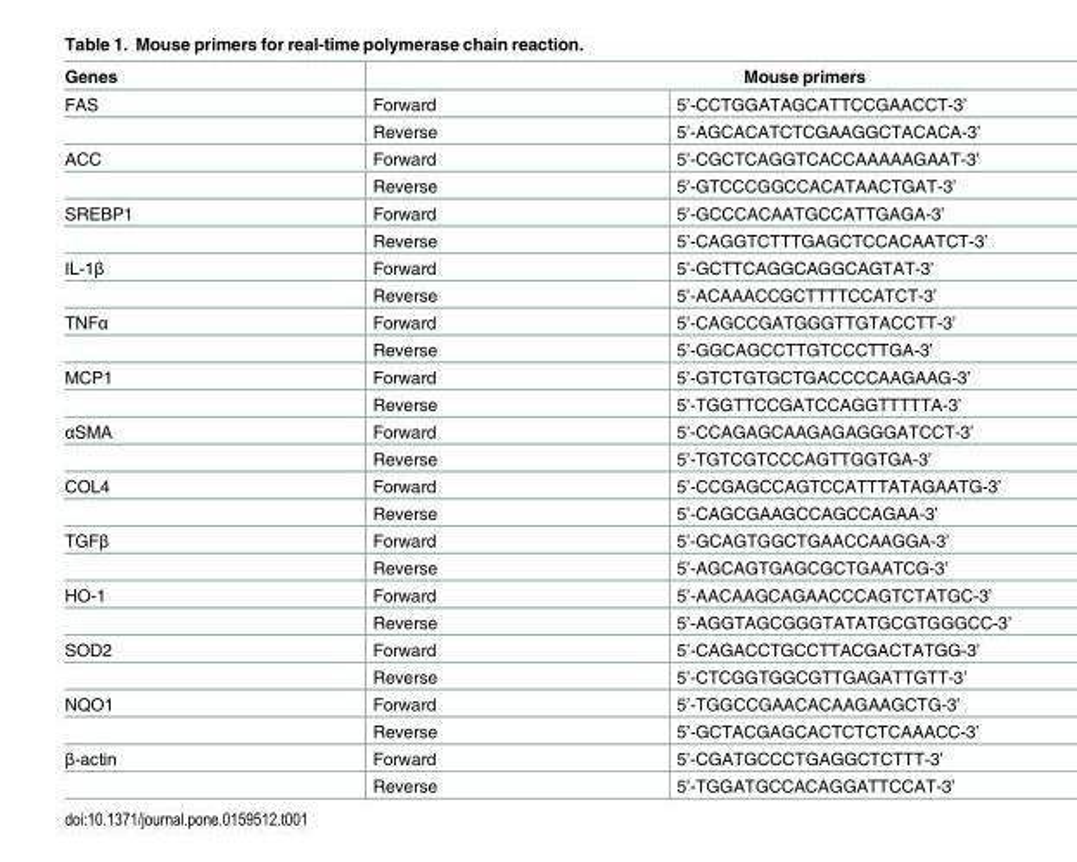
<table><thead><tr><td rowspan="2">Genes FAS</td><td colspan="2">Mouse primers</td></tr><tr><td>Forward</td><td>5’-CCTGGATAGCATTCCGAACCT-3’</td></tr></thead><tbody><tr><td></td><td>Reverse</td><td>5’-AGCACATCTCGAAGGCTACACA-3’</td></tr><tr><td rowspan="2">ACC</td><td>Forward</td><td>5’-CGCTCAGGTCACCAAAAAGAAT-3’</td></tr><tr><td>Reverse</td><td>5’-GTCCCGGCCACATAACTGAT-3’</td></tr><tr><td rowspan="2">SREBP1</td><td>Forward</td><td>5’-GCCCACAATGCCATTGAGA-3’</td></tr><tr><td>Reverse</td><td>5’-CAGGTCTTTGAGCTCCACAATCT-3’</td></tr><tr><td rowspan="2">IL-1β</td><td>Forward</td><td>5’-GCTTCAGGCAGGCAGTAT-3’</td></tr><tr><td>Reverse</td><td>5’-ACAAACCGCTTTTCCATCT-3’</td></tr><tr><td rowspan="2">TNFα</td><td>Forward</td><td>5’-CAGCCGATGGGTTGTACCTT-3’</td></tr><tr><td>Reverse</td><td>5’-GGCAGCCTTGTCCCTTGA-3’</td></tr><tr><td rowspan="2">MCP1</td><td>Forward</td><td>5’-GTCTGTGCTGACCCCAAGAAG-3’</td></tr><tr><td>Reverse</td><td>5’-TGGTTCCGATCCAGGTTTTTA-3’</td></tr><tr><td rowspan="2">αSMA</td><td>Forward</td><td>5’-CCAGAGCAAGAGAGGGATCCT-3’</td></tr><tr><td>Reverse</td><td>5’-TGTCGTCCCAGTTGGTGA-3’</td></tr><tr><td rowspan="2">COL4</td><td>Forward</td><td>5’-CCGAGCCAGTCCATTTATAGAATG-3’</td></tr><tr><td>Reverse</td><td>5’-CAGCGAAGCCAGCCAGAA-3’</td></tr><tr><td rowspan="2">TGFβ</td><td>Forward</td><td>5’-GCAGTGGCTGAACCAAGGA-3’</td></tr><tr><td>Reverse</td><td>5’-AGCAGTGAGCGCTGAATCG-3’</td></tr><tr><td rowspan="2">HO-1</td><td>Forward</td><td>5’-AACAAGCAGAACCCAGTCTATGC-3’</td></tr><tr><td>Reverse</td><td>5’-AGGTAGCGGGTATATGCGTGGGCC-3’</td></tr><tr><td rowspan="2">SOD2</td><td>Forward</td><td>5’-CAGACCTGCCTTACGACTATGG-3’</td></tr><tr><td>Reverse</td><td>5’-CTCGGTGGCGTTGAGATTGTT-3’</td></tr><tr><td rowspan="2">NQO1</td><td>Forward</td><td>5’-TGGCCGAACACAAGAAGCTG-3’</td></tr><tr><td>Reverse</td><td>5’-GCTACGAGCACTCTCTCAAACC-3’</td></tr><tr><td rowspan="2">β-actin</td><td>Forward</td><td>5’-CGATGCCCTGAGGCTCTTT-3’</td></tr><tr><td>Reverse</td><td>5’-TGGATGCCACAGGATTCCAT-3’</td></tr></tbody></table>